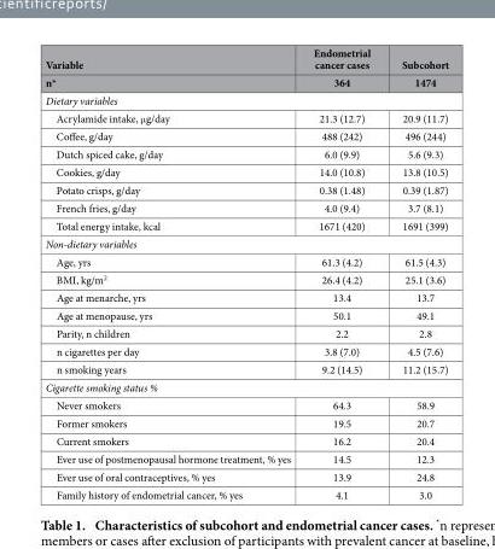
<table><thead><tr><td rowspan="2">Variable n*</td><td rowspan="2">Endometrial cancer cases 364</td><td rowspan="2">Subcohort 1474</td></tr><tr></tr></thead><tbody><tr><td colspan="3">Dietary variables</td></tr><tr><td>Acrylamide intake, μ g/day</td><td>21.3 (12.7)</td><td>20.9 (11.7)</td></tr><tr><td>Coffee, g/day</td><td>488 (242)</td><td>496 (244)</td></tr><tr><td>Dutch spiced cake, g/day</td><td>6.0 (9.9)</td><td>5.6 (9.3)</td></tr><tr><td>Cookies, g/day</td><td>14.0 (10.8)</td><td>13.8 (10.5)</td></tr><tr><td>Potato crisps, g/day</td><td>0.38 (1.48)</td><td>0.39 (1.87)</td></tr><tr><td>French fries, g/day</td><td>4.0 (9.4)</td><td>3.7 (8.1)</td></tr><tr><td>Total energy intake, kcal</td><td>1671 (420)</td><td>1691 (399)</td></tr><tr><td colspan="3">Non-dietary variables</td></tr><tr><td>Age, yrs</td><td>61.3 (4.2)</td><td>61.5 (4.3)</td></tr><tr><td>BMI, kg/m<sup>2</sup></td><td>26.4 (4.2)</td><td>25.1 (3.6)</td></tr><tr><td>Age at menarche, yrs</td><td>13.4</td><td>13.7</td></tr><tr><td>Age at menopause, yrs</td><td>50.1</td><td>49.1</td></tr><tr><td>Parity, n children</td><td>2.2</td><td>2.8</td></tr><tr><td>n cigarettes per day</td><td>3.8 (7.0)</td><td>4.5 (7.6)</td></tr><tr><td>n smoking years</td><td>9.2 (14.5)</td><td>11.2 (15.7)</td></tr><tr><td colspan="3">Cigarette smoking status %</td></tr><tr><td>Never smokers</td><td>64.3</td><td>58.9</td></tr><tr><td>Former smokers</td><td>19.5</td><td>20.7</td></tr><tr><td>Current smokers</td><td>16.2</td><td>20.4</td></tr><tr><td>Ever use of postmenopausal hormone treatment, % yes</td><td>14.5</td><td>12.3</td></tr><tr><td>Ever use of oral contraceptives, % yes</td><td>13.9</td><td>24.8</td></tr><tr><td>Family history of endometrial cancer, % yes</td><td>4.1</td><td>3.0</td></tr></tbody></table>